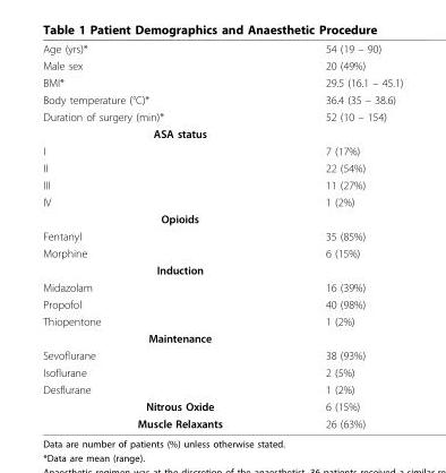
<table><tbody><tr><td>Age (yrs)*</td><td>54 (19 – 90)</td></tr><tr><td>Male sex</td><td>20 (49%)</td></tr><tr><td>BMI*</td><td>29.5 (16.1 – 45.1)</td></tr><tr><td>Body temperature (°C)*</td><td>36.4 (35 – 38.6)</td></tr><tr><td>Duration of surgery (min)*</td><td>52 (10 – 154)</td></tr><tr><td colspan="2">ASA status</td></tr><tr><td>I</td><td>7 (17%)</td></tr><tr><td>II</td><td>22 (54%)</td></tr><tr><td>III</td><td>11 (27%)</td></tr><tr><td>IV</td><td>1 (2%)</td></tr><tr><td colspan="2">Opioids</td></tr><tr><td>Fentanyl</td><td>35 (85%)</td></tr><tr><td>Morphine</td><td>6 (15%)</td></tr><tr><td colspan="2">Induction</td></tr><tr><td>Midazolam</td><td>16 (39%)</td></tr><tr><td>Propofol</td><td>40 (98%)</td></tr><tr><td>Thiopentone</td><td>1 (2%)</td></tr><tr><td colspan="2">Maintenance</td></tr><tr><td>Sevoflurane</td><td>38 (93%)</td></tr><tr><td>Isoflurane</td><td>2 (5%)</td></tr><tr><td>Desflurane</td><td>1 (2%)</td></tr><tr><td>Nitrous Oxide</td><td>6 (15%)</td></tr><tr><td>Muscle Relaxants</td><td>26 (63%)</td></tr></tbody></table>